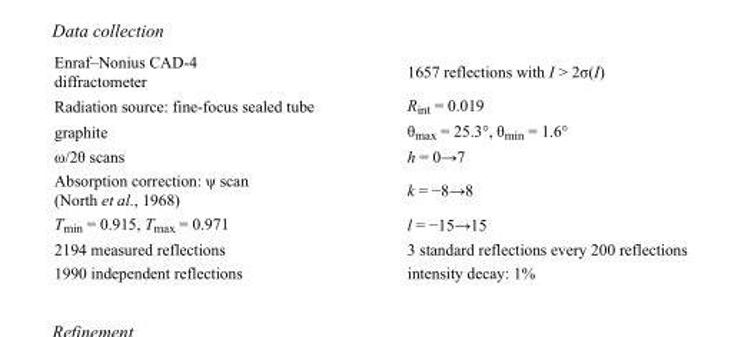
<table><tbody><tr><td>Enraf–Nonius CAD-4 diffractometer</td><td>1657 reflections with I &gt; 2σ(I)</td></tr><tr><td>Radiation source: fine-focus sealed tube</td><td>R<sub>int</sub> = 0.019</td></tr><tr><td>graphite</td><td>θ<sub>max</sub> = 25.3°, θ<sub>min</sub> = 1.6°</td></tr><tr><td>ω/2θ scans</td><td>h = 0→7</td></tr><tr><td>Absorption correction: ψ scan (North et al., 1968)</td><td>k = −8→8</td></tr><tr><td>T<sub>min</sub> = 0.915, T<sub>max</sub> = 0.971</td><td>l = −15→15</td></tr><tr><td>2194 measured reflections</td><td>3 standard reflections every 200 reflections</td></tr><tr><td>1990 independent reflections</td><td>intensity decay: 1%</td></tr></tbody></table>